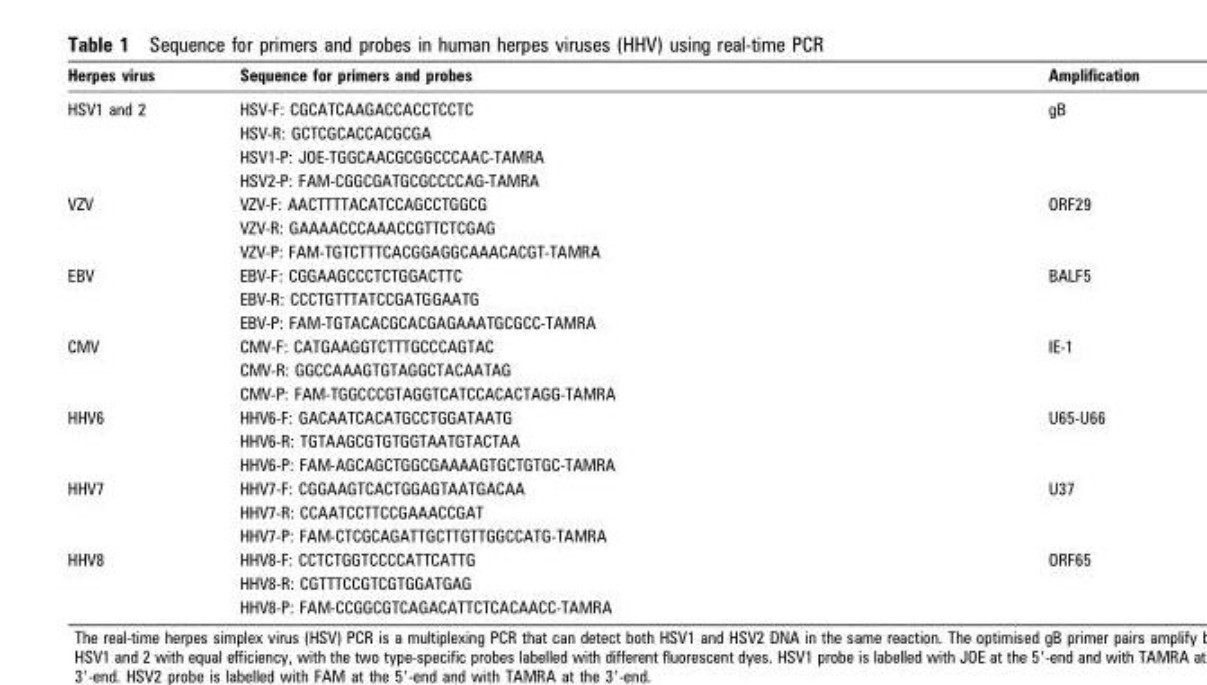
<table><thead><tr><td>Herpes virus</td><td>Sequence for primers and probes</td><td>Amplification</td></tr></thead><tbody><tr><td rowspan="4">HSV1 and 2</td><td>HSV-F: CGCATCAAGACCACCTCCTC</td><td>gB</td></tr><tr><td>HSV-R: GCTCGCACCACGCGA</td><td></td></tr><tr><td>HSV1-P: JOE-TGGCAACGCGGCCCAAC-TAMRA</td><td></td></tr><tr><td>HSV2-P: FAM-CGGCGATGCGCCCCAG-TAMRA</td><td></td></tr><tr><td rowspan="3">VZV</td><td>VZV-F: AACTTTTACATCCAGCCTGGCG</td><td>ORF29</td></tr><tr><td>VZV-R: GAAAACCCAAACCGTTCTCGAG</td><td></td></tr><tr><td>VZV-P: FAM-TGTCTTTCACGGAGGCAAACACGT-TAMRA</td><td></td></tr><tr><td rowspan="3">EBV</td><td>EBV-F: CGGAAGCCCTCTGGACTTC</td><td>BALF5</td></tr><tr><td>EBV-R: CCCTGTTTATCCGATGGAATG</td><td></td></tr><tr><td>EBV-P: FAM-TGTACACGCACGAGAAATGCGCC-TAMRA</td><td></td></tr><tr><td rowspan="3">CMV</td><td>CMV-F: CATGAAGGTCTTTGCCCAGTAC</td><td>IE-1</td></tr><tr><td>CMV-R: GGCCAAAGTGTAGGCTACAATAG</td><td></td></tr><tr><td>CMV-P: FAM-TGGCCCGTAGGTCATCCACACTAGG-TAMRA</td><td></td></tr><tr><td rowspan="3">HHV6</td><td>HHV6-F: GACAATCACATGCCTGGATAATG</td><td>U65-U66</td></tr><tr><td>HHV6-R: TGTAAGCGTGTGGTAATGTACTAA</td><td></td></tr><tr><td>HHV6-P: FAM-AGCAGCTGGCGAAAAGTGCTGTGC-TAMRA</td><td></td></tr><tr><td rowspan="3">HHV7</td><td>HHV7-F: CGGAAGTCACTGGAGTAATGACAA</td><td>U37</td></tr><tr><td>HHV7-R: CCAATCCTTCCGAAACCGAT</td><td></td></tr><tr><td>HHV7-P: FAM-CTCGCAGATTGCTTGTTGGCCATG-TAMRA</td><td></td></tr><tr><td rowspan="3">HHV8</td><td>HHV8-F: CCTCTGGTCCCCATTCATTG</td><td>ORF65</td></tr><tr><td>HHV8-R: CGTTTCCGTCGTGGATGAG</td><td></td></tr><tr><td>HHV8-P: FAM-CCGGCGTCAGACATTCTCACAACC-TAMRA</td><td></td></tr></tbody></table>